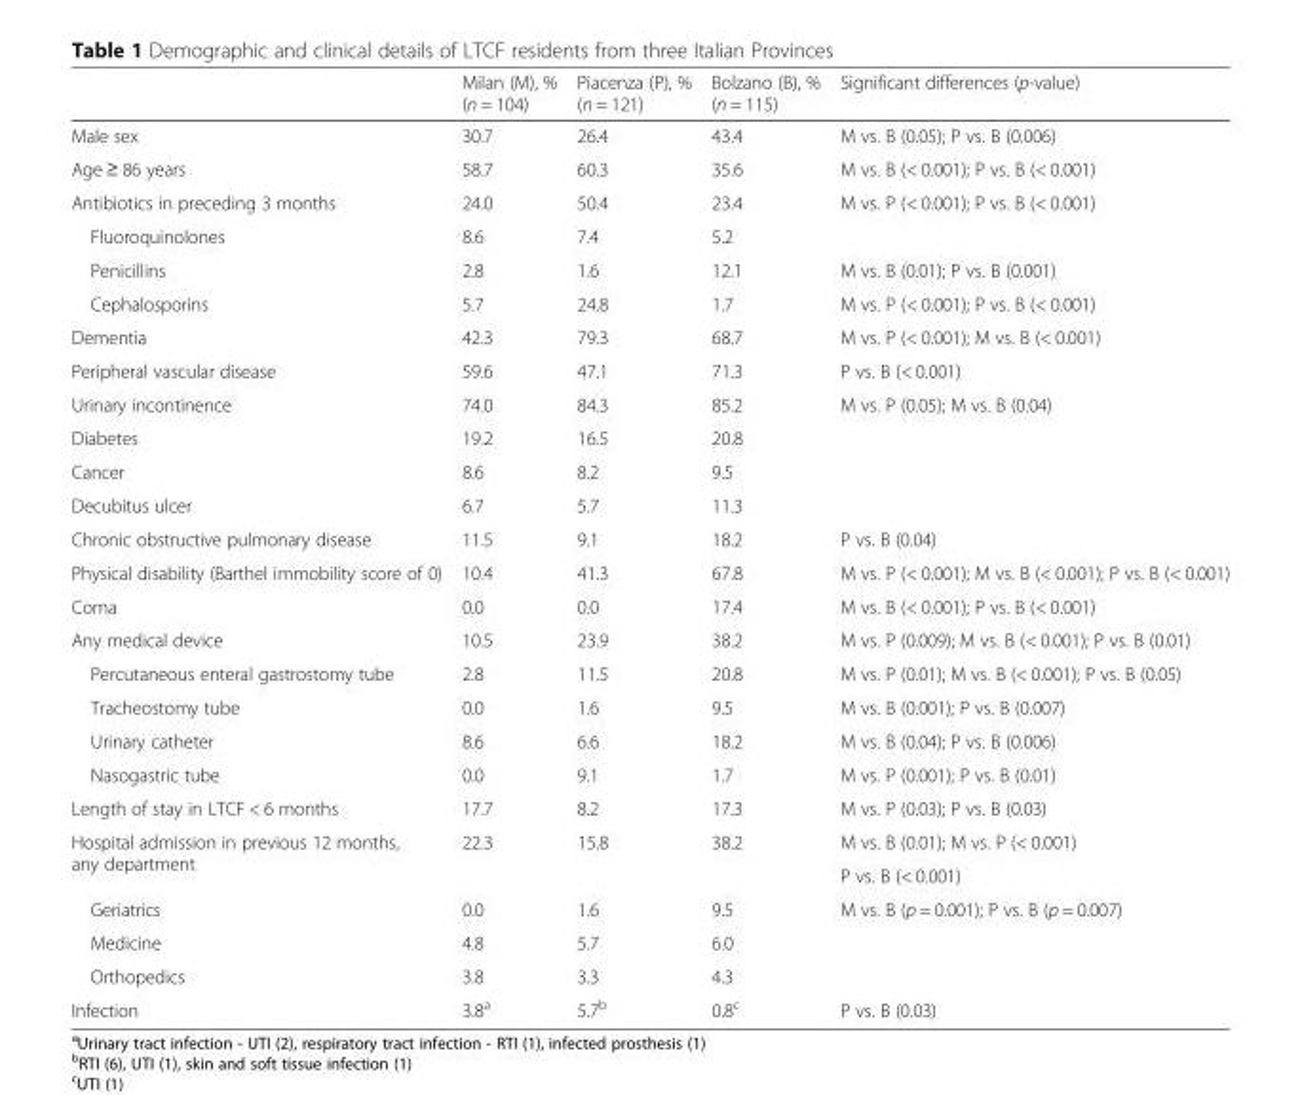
<table><thead><tr><td></td><td>Milan (M), % (n = 104)</td><td>Piacenza (P), % (n = 121)</td><td>Bolzano (B), % (n = 115)</td><td>Significant differences (p-value)</td></tr></thead><tbody><tr><td>Male sex</td><td>30.7</td><td>26.4</td><td>43.4</td><td>M vs. B (0.05); P vs. B (0.006)</td></tr><tr><td>Age ≥ 86 years</td><td>58.7</td><td>60.3</td><td>35.6</td><td>M vs. B (&lt; 0.001); P vs. B (&lt; 0.001)</td></tr><tr><td>Antibiotics in preceding 3 months</td><td>24.0</td><td>50.4</td><td>23.4</td><td>M vs. P (&lt; 0.001); P vs. B (&lt; 0.001)</td></tr><tr><td>Fluoroquinolones</td><td>8.6</td><td>7.4</td><td>5.2</td><td></td></tr><tr><td>Penicillins</td><td>2.8</td><td>1.6</td><td>12.1</td><td>M vs. B (0.01); P vs. B (0.001)</td></tr><tr><td>Cephalosporins</td><td>5.7</td><td>24.8</td><td>1.7</td><td>M vs. P (&lt; 0.001); P vs. B (&lt; 0.001)</td></tr><tr><td>Dementia</td><td>42.3</td><td>79.3</td><td>68.7</td><td>M vs. P (&lt; 0.001); M vs. B (&lt; 0.001)</td></tr><tr><td>Peripheral vascular disease</td><td>59.6</td><td>47.1</td><td>71.3</td><td>P vs. B (&lt; 0.001)</td></tr><tr><td>Urinary incontinence</td><td>74.0</td><td>84.3</td><td>85.2</td><td>M vs. P (0.05); M vs. B (0.04)</td></tr><tr><td>Diabetes</td><td>19.2</td><td>16.5</td><td>20.8</td><td></td></tr><tr><td>Cancer</td><td>8.6</td><td>8.2</td><td>9.5</td><td></td></tr><tr><td>Decubitus ulcer</td><td>6.7</td><td>5.7</td><td>11.3</td><td></td></tr><tr><td>Chronic obstructive pulmonary disease</td><td>11.5</td><td>9.1</td><td>18.2</td><td>P vs. B (0.04)</td></tr><tr><td>Physical disability (Barthel immobility score of 0)</td><td>10.4</td><td>41.3</td><td>67.8</td><td>M vs. P (&lt; 0.001); M vs. B (&lt; 0.001); P vs. B (&lt; 0.001)</td></tr><tr><td>Coma</td><td>0.0</td><td>0.0</td><td>17.4</td><td>M vs. B (&lt; 0.001); P vs. B (&lt; 0.001)</td></tr><tr><td>Any medical device</td><td>10.5</td><td>23.9</td><td>38.2</td><td>M vs. P (0.009); M vs. B (&lt; 0.001); P vs. B (0.01)</td></tr><tr><td>Percutaneous enteral gastrostomy tube</td><td>2.8</td><td>11.5</td><td>20.8</td><td>M vs. P (0.01); M vs. B (&lt; 0.001); P vs. B (0.05)</td></tr><tr><td>Tracheostomy tube</td><td>0.0</td><td>1.6</td><td>9.5</td><td>M vs. B (0.001); P vs. B (0.007)</td></tr><tr><td>Urinary catheter</td><td>8.6</td><td>6.6</td><td>18.2</td><td>M vs. B (0.04); P vs. B (0.006)</td></tr><tr><td>Nasogastric tube</td><td>0.0</td><td>9.1</td><td>1.7</td><td>M vs. P (0.001); P vs. B (0.01)</td></tr><tr><td>Length of stay in LTCF &lt; 6 months</td><td>17.7</td><td>8.2</td><td>17.3</td><td>M vs. P (0.03); P vs. B (0.03)</td></tr><tr><td rowspan="2">Hospital admission in previous 12 months, any department</td><td rowspan="2">22.3</td><td rowspan="2">15.8</td><td rowspan="2">38.2</td><td>M vs. B (0.01); M vs. P (&lt; 0.001)</td></tr><tr><td>P vs. B (&lt; 0.001)</td></tr><tr><td>Geriatrics</td><td>0.0</td><td>1.6</td><td>9.5</td><td>M vs. B (p = 0.001); P vs. B (p = 0.007)</td></tr><tr><td>Medicine</td><td>4.8</td><td>5.7</td><td>6.0</td><td></td></tr><tr><td>Orthopedics</td><td>3.8</td><td>3.3</td><td>4.3</td><td></td></tr><tr><td>Infection</td><td>3.8<sup>a</sup></td><td>5.7<sup>b</sup></td><td>0.8<sup>c</sup></td><td>P vs. B (0.03)</td></tr></tbody></table>